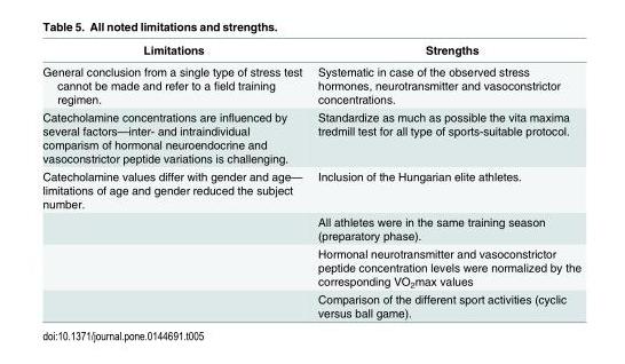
<table><thead><tr><td>Limitations</td><td>Strengths</td></tr></thead><tbody><tr><td>General conclusion from a single type of stress test cannot be made and refer to a field training regimen.</td><td>Systematic in case of the observed stress hormones, neurotransmitter and vasoconstrictor concentrations.</td></tr><tr><td>Catecholamine concentrations are influenced by several factors—inter- and intraindividual comparism of hormonal neuroendocrine and vasoconstrictor peptide variations is challenging.</td><td>Standardize as much as possible the vita maxima tredmill test for all type of sports-suitable protocol.</td></tr><tr><td rowspan="4">Catecholamine values differ with gender and age— limitations of age and gender reduced the subject number.</td><td>Inclusion of the Hungarian elite athletes.</td></tr><tr><td>All athletes were in the same training season (preparatory phase).</td></tr><tr><td>Hormonal neurotransmitter and vasoconstrictor peptide concentration levels were normalized by the corresponding VO<sub>2</sub>max values</td></tr><tr><td>Comparison of the different sport activities (cyclic versus ball game).</td></tr></tbody></table>